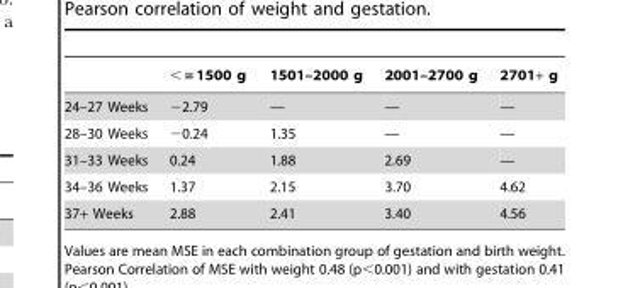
<table><thead><tr><td></td><td>&lt; = 1500 g</td><td>1501–2000 g</td><td>2001–2700 g</td><td>2701+ g</td></tr></thead><tbody><tr><td>24–27 Weeks</td><td>−2.79</td><td>—</td><td>—</td><td>—</td></tr><tr><td>28–30 Weeks</td><td>−0.24</td><td>1.35</td><td>—</td><td>—</td></tr><tr><td>31–33 Weeks</td><td>0.24</td><td>1.88</td><td>2.69</td><td>—</td></tr><tr><td>34–36 Weeks</td><td>1.37</td><td>2.15</td><td>3.70</td><td>4.62</td></tr><tr><td>37+ Weeks</td><td>2.88</td><td>2.41</td><td>3.40</td><td>4.56</td></tr></tbody></table>